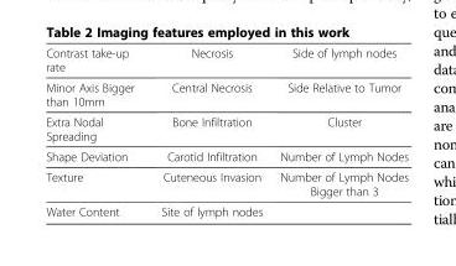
<table><thead><tr><td>Contrast take-up rate</td><td>Necrosis</td><td>Side of lymph nodes</td></tr></thead><tbody><tr><td>Minor Axis Bigger than 10mm</td><td>Central Necrosis</td><td>Side Relative to Tumor</td></tr><tr><td>Extra Nodal Spreading</td><td>Bone Infiltration</td><td>Cluster</td></tr><tr><td>Shape Deviation</td><td>Carotid Infiltration</td><td>Number of Lymph Nodes</td></tr><tr><td>Texture</td><td>Cuteneous Invasion</td><td>Number of Lymph Nodes Bigger than 3</td></tr><tr><td>Water Content</td><td>Site of lymph nodes</td><td></td></tr></tbody></table>